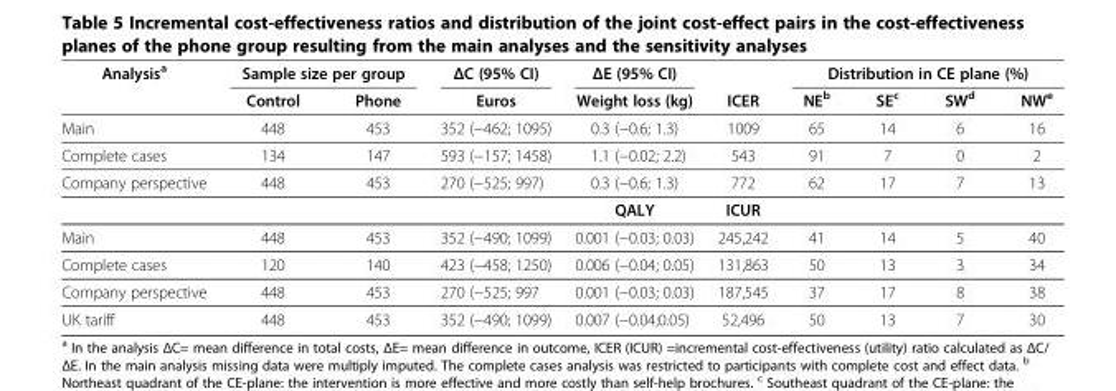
<table><thead><tr><td rowspan="2">Analysis<sup>a</sup></td><td colspan="2">Sample size per group</td><td rowspan="2">ΔC (95% CI) Euros</td><td rowspan="2">ΔE (95% CI) Weight loss (kg)</td><td rowspan="2">ICER</td><td colspan="4">Distribution in CE plane (%)</td></tr><tr><td>Control</td><td>Phone</td><td>NE<sup>b</sup></td><td>SE<sup>c</sup></td><td>SW<sup>d</sup></td><td>NW<sup>e</sup></td></tr></thead><tbody><tr><td>Main</td><td>448</td><td>453</td><td>352 (−462; 1095)</td><td>0.3 (−0.6; 1.3)</td><td>1009</td><td>65</td><td>14</td><td>6</td><td>16</td></tr><tr><td>Complete cases</td><td>134</td><td>147</td><td>593 (−157; 1458)</td><td>1.1 (−0.02; 2.2)</td><td>543</td><td>91</td><td>7</td><td>0</td><td>2</td></tr><tr><td rowspan="2">Company perspective</td><td>448</td><td>453</td><td>270 (−525; 997)</td><td>0.3 (−0.6; 1.3)</td><td>772</td><td>62</td><td>17</td><td>7</td><td>13</td></tr><tr><td></td><td></td><td></td><td>QALY</td><td>ICUR</td><td></td><td></td><td></td><td></td></tr><tr><td>Main</td><td>448</td><td>453</td><td>352 (−490; 1099)</td><td>0.001 (−0.03; 0.03)</td><td>245,242</td><td>41</td><td>14</td><td>5</td><td>40</td></tr><tr><td>Complete cases</td><td>120</td><td>140</td><td>423 (−458; 1250)</td><td>0.006 (−0.04; 0.05)</td><td>131,863</td><td>50</td><td>13</td><td>3</td><td>34</td></tr><tr><td>Company perspective</td><td>448</td><td>453</td><td>270 (−525; 997</td><td>0.001 (−0.03; 0.03)</td><td>187,545</td><td>37</td><td>17</td><td>8</td><td>38</td></tr><tr><td>UK tariff</td><td>448</td><td>453</td><td>352 (−490; 1099)</td><td>0.007 (−0.04;0.05)</td><td>52,496</td><td>50</td><td>13</td><td>7</td><td>30</td></tr></tbody></table>